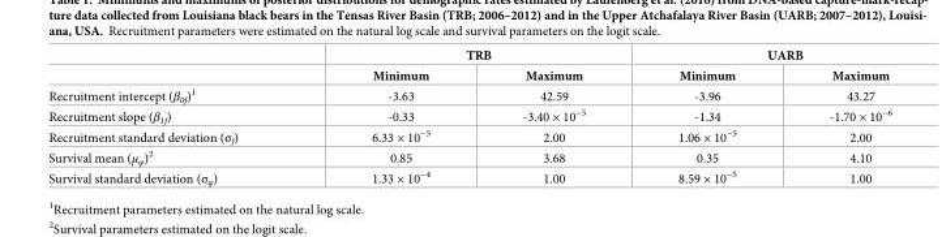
<table><thead><tr><td rowspan="2"></td><td colspan="2">TRB</td><td colspan="2">UARB</td></tr><tr><td>Minimum</td><td>Maximum</td><td>Minimum</td><td>Maximum</td></tr></thead><tbody><tr><td>Recruitment intercept (β<sub>0f</sub>)<sup>1</sup></td><td>-3.63</td><td>42.59</td><td>-3.96</td><td>43.27</td></tr><tr><td>Recruitment slope (β<sub>1f</sub>)</td><td>-0.33</td><td>-3.40 × 10<sup>−5</sup></td><td>-1.34</td><td>-1.70 × 10<sup>−6</sup></td></tr><tr><td>Recruitment standard deviation (σ<sub>f</sub>)</td><td>6.33 × 10<sup>−5</sup></td><td>2.00</td><td>1.06 × 10<sup>−5</sup></td><td>2.00</td></tr><tr><td>Survival mean (μ<sub>φ</sub>)<sup>2</sup></td><td>0.85</td><td>3.68</td><td>0.35</td><td>4.10</td></tr><tr><td>Survival standard deviation (σ<sub>φ</sub>)</td><td>1.33 × 10<sup>−4</sup></td><td>1.00</td><td>8.59 × 10<sup>−5</sup></td><td>1.00</td></tr></tbody></table>